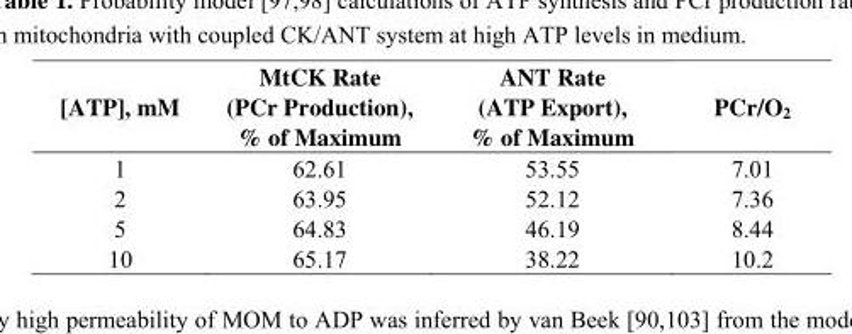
<table><thead><tr><td>[ATP], mM</td><td>MtCK Rate (PCr Production), % of Maximum</td><td>ANT Rate (ATP Export), % of Maximum</td><td>PCr/O<sub>2</sub></td></tr></thead><tbody><tr><td>1</td><td>62.61</td><td>53.55</td><td>7.01</td></tr><tr><td>2</td><td>63.95</td><td>52.12</td><td>7.36</td></tr><tr><td>5</td><td>64.83</td><td>46.19</td><td>8.44</td></tr><tr><td>10</td><td>65.17</td><td>38.22</td><td>10.2</td></tr></tbody></table>